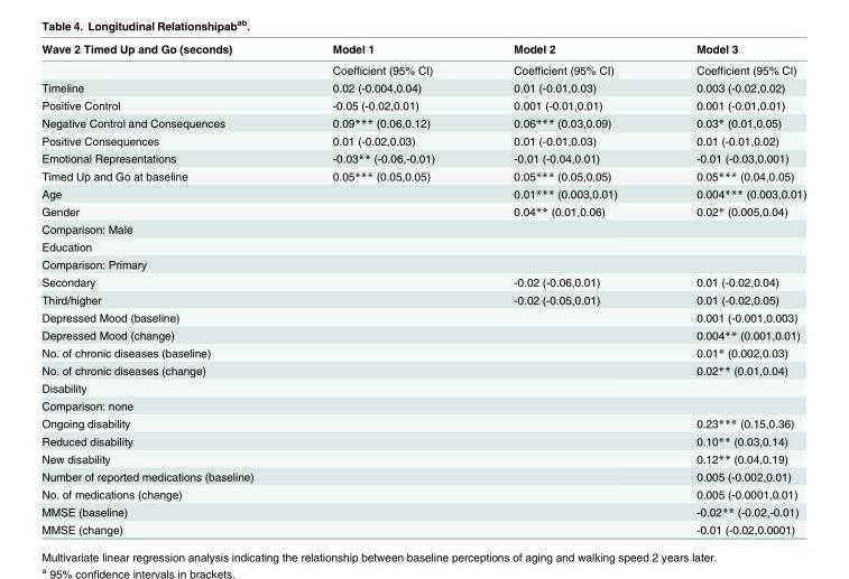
<table><thead><tr><td>Wave 2 Timed Up and Go (seconds)</td><td>Model 1</td><td>Model 2</td><td>Model 3</td></tr></thead><tbody><tr><td></td><td>Coefficient (95% CI)</td><td>Coefficient (95% CI)</td><td>Coefficient (95% CI)</td></tr><tr><td>Timeline</td><td>0.02 (-0.004,0.04)</td><td>0.01 (-0.01,0.03)</td><td>0.003 (-0.02,0.02)</td></tr><tr><td>Positive Control</td><td>-0.05 (-0.02,0.01)</td><td>0.001 (-0.01,0.01)</td><td>0.001 (-0.01,0.01)</td></tr><tr><td>Negative Control and Consequences</td><td>0.09*** (0.06,0.12)</td><td>0.06*** (0.03,0.09)</td><td>0.03* (0.01,0.05)</td></tr><tr><td>Positive Consequences</td><td>0.01 (-0.02,0.03)</td><td>0.01 (-0.01,0.03)</td><td>0.01 (-0.01,0.02)</td></tr><tr><td>Emotional Representations</td><td>-0.03** (-0.06,-0.01)</td><td>-0.01 (-0.04,0.01)</td><td>-0.01 (-0.03,0.001)</td></tr><tr><td>Timed Up and Go at baseline</td><td>0.05*** (0.05,0.05)</td><td>0.05*** (0.05,0.05)</td><td>0.05*** (0.04,0.05)</td></tr><tr><td>Age</td><td></td><td>0.01*** (0.003,0.01)</td><td>0.004*** (0.003,0.01)</td></tr><tr><td>Gender</td><td></td><td>0.04** (0.01,0.06)</td><td>0.02* (0.005,0.04)</td></tr><tr><td colspan="4">Comparison: Male</td></tr><tr><td colspan="4">Education</td></tr><tr><td colspan="4">Comparison: Primary</td></tr><tr><td>Secondary</td><td></td><td>-0.02 (-0.06,0.01)</td><td>0.01 (-0.02,0.04)</td></tr><tr><td>Third/higher</td><td></td><td>-0.02 (-0.05,0.01)</td><td>0.01 (-0.02,0.05)</td></tr><tr><td>Depressed Mood (baseline)</td><td></td><td></td><td>0.001 (-0.001,0.003)</td></tr><tr><td>Depressed Mood (change)</td><td></td><td></td><td>0.004** (0.001,0.01)</td></tr><tr><td>No. of chronic diseases (baseline)</td><td></td><td></td><td>0.01* (0.002,0.03)</td></tr><tr><td>No. of chronic diseases (change)</td><td></td><td></td><td>0.02** (0.01,0.04)</td></tr><tr><td colspan="4">Disability</td></tr><tr><td colspan="4">Comparison: none</td></tr><tr><td>Ongoing disability</td><td></td><td></td><td>0.23*** (0.15,0.36)</td></tr><tr><td>Reduced disability</td><td></td><td></td><td>0.10** (0.03,0.14)</td></tr><tr><td>New disability</td><td></td><td></td><td>0.12** (0.04,0.19)</td></tr><tr><td>Number of reported medications (baseline)</td><td></td><td></td><td>0.005 (-0.002,0.01)</td></tr><tr><td>No. of medications (change)</td><td></td><td></td><td>0.005 (-0.0001,0.01)</td></tr><tr><td>MMSE (baseline)</td><td></td><td></td><td>-0.02** (-0.02,-0.01)</td></tr><tr><td>MMSE (change)</td><td></td><td></td><td>-0.01 (-0.02,0.0001)</td></tr></tbody></table>